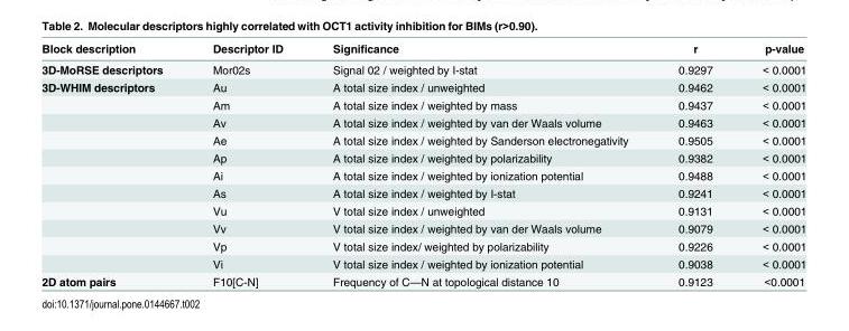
<table><thead><tr><td>Block description</td><td>Descriptor ID</td><td>Significance</td><td>r</td><td>p-value</td></tr></thead><tbody><tr><td>3D-MoRSE descriptors</td><td>Mor02s</td><td>Signal 02 / weighted by I-stat</td><td>0.9297</td><td>&lt; 0.0001</td></tr><tr><td rowspan="11">3D-WHIM descriptors</td><td>Au</td><td>A total size index / unweighted</td><td>0.9462</td><td>&lt; 0.0001</td></tr><tr><td>Am</td><td>A total size index / weighted by mass</td><td>0.9437</td><td>&lt; 0.0001</td></tr><tr><td>Av</td><td>A total size index / weighted by van der Waals volume</td><td>0.9463</td><td>&lt; 0.0001</td></tr><tr><td>Ae</td><td>A total size index / weighted by Sanderson electronegativity</td><td>0.9505</td><td>&lt; 0.0001</td></tr><tr><td>Ap</td><td>A total size index / weighted by polarizability</td><td>0.9382</td><td>&lt; 0.0001</td></tr><tr><td>Ai</td><td>A total size index / weighted by ionization potential</td><td>0.9488</td><td>&lt; 0.0001</td></tr><tr><td>As</td><td>A total size index / weighted by I-stat</td><td>0.9241</td><td>&lt; 0.0001</td></tr><tr><td>Vu</td><td>V total size index / unweighted</td><td>0.9131</td><td>&lt; 0.0001</td></tr><tr><td>Vv</td><td>V total size index / weighted by van der Waals volume</td><td>0.9079</td><td>&lt; 0.0001</td></tr><tr><td>Vp</td><td>V total size index/ weighted by polarizability</td><td>0.9226</td><td>&lt; 0.0001</td></tr><tr><td>Vi</td><td>V total size index / weighted by ionization potential</td><td>0.9038</td><td>&lt; 0.0001</td></tr><tr><td>2D atom pairs</td><td>F10[C-N]</td><td>Frequency of C—N at topological distance 10</td><td>0.9123</td><td>&lt;0.0001</td></tr></tbody></table>